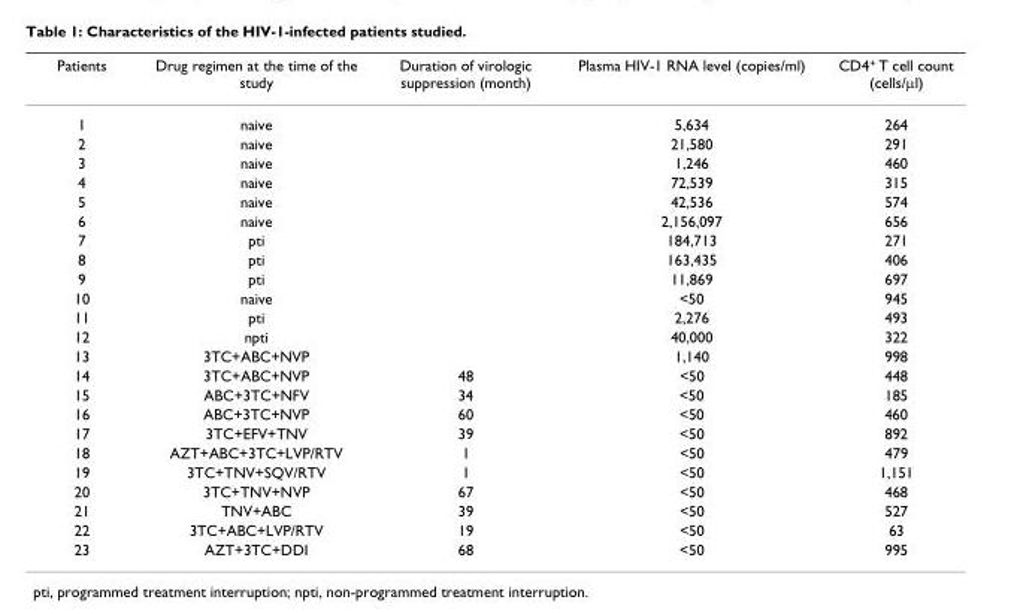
<table><thead><tr><td>Patients</td><td>Drug regimen at the time of the study</td><td>Duration of virologic suppression (month)</td><td>Plasma HIV-1 RNA level (copies/ml)</td><td>CD4<sup>+</sup> T cell count (cells/µl)</td></tr></thead><tbody><tr><td>1</td><td>naive</td><td></td><td>5,634</td><td>264</td></tr><tr><td>2</td><td>naive</td><td></td><td>21,580</td><td>291</td></tr><tr><td>3</td><td>naive</td><td></td><td>1,246</td><td>460</td></tr><tr><td>4</td><td>naive</td><td></td><td>72,539</td><td>315</td></tr><tr><td>5</td><td>naive</td><td></td><td>42,536</td><td>574</td></tr><tr><td>6</td><td>naive</td><td></td><td>2,156,097</td><td>656</td></tr><tr><td>7</td><td>pti</td><td></td><td>184,713</td><td>271</td></tr><tr><td>8</td><td>pti</td><td></td><td>163,435</td><td>406</td></tr><tr><td>9</td><td>pti</td><td></td><td>11,869</td><td>697</td></tr><tr><td>10</td><td>naive</td><td></td><td>&lt;50</td><td>945</td></tr><tr><td>11</td><td>pti</td><td></td><td>2,276</td><td>493</td></tr><tr><td>12</td><td>npti</td><td></td><td>40,000</td><td>322</td></tr><tr><td>13</td><td>3TC+ABC+NVP</td><td></td><td>1,140</td><td>998</td></tr><tr><td>14</td><td>3TC+ABC+NVP</td><td>48</td><td>&lt;50</td><td>448</td></tr><tr><td>15</td><td>ABC+3TC+NFV</td><td>34</td><td>&lt;50</td><td>185</td></tr><tr><td>16</td><td>ABC+3TC+NVP</td><td>60</td><td>&lt;50</td><td>460</td></tr><tr><td>17</td><td>3TC+EFV+TNV</td><td>39</td><td>&lt;50</td><td>892</td></tr><tr><td>18</td><td>AZT+ABC+3TC+LVP/RTV</td><td>1</td><td>&lt;50</td><td>479</td></tr><tr><td>19</td><td>3TC+TNV+SQV/RTV</td><td>1</td><td>&lt;50</td><td>1,151</td></tr><tr><td>20</td><td>3TC+TNV+NVP</td><td>67</td><td>&lt;50</td><td>468</td></tr><tr><td>21</td><td>TNV+ABC</td><td>39</td><td>&lt;50</td><td>527</td></tr><tr><td>22</td><td>3TC+ABC+LVP/RTV</td><td>19</td><td>&lt;50</td><td>63</td></tr><tr><td>23</td><td>AZT+3TC+DDI</td><td>68</td><td>&lt;50</td><td>995</td></tr></tbody></table>